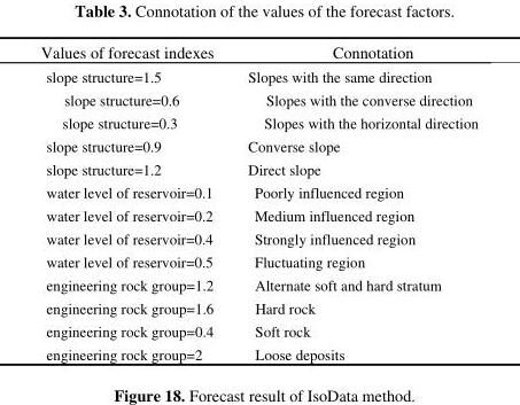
<table><thead><tr><td>Values of forecast indexes</td><td>Connotation</td></tr></thead><tbody><tr><td>slope structure=1.5</td><td>Slopes with the same direction</td></tr><tr><td>slope structure=0.6</td><td>Slopes with the converse direction</td></tr><tr><td>slope structure=0.3</td><td>Slopes with the horizontal direction</td></tr><tr><td>slope structure=0.9</td><td>Converse slope</td></tr><tr><td>slope structure=1.2</td><td>Direct slope</td></tr><tr><td>water level of reservoir=0.1</td><td>Poorly influenced region</td></tr><tr><td>water level of reservoir=0.2</td><td>Medium influenced region</td></tr><tr><td>water level of reservoir=0.4</td><td>Strongly influenced region</td></tr><tr><td>water level of reservoir=0.5</td><td>Fluctuating region</td></tr><tr><td>engineering rock group=1.2</td><td>Alternate soft and hard stratum</td></tr><tr><td>engineering rock group=1.6</td><td>Hard rock</td></tr><tr><td>engineering rock group=0.4</td><td>Soft rock</td></tr><tr><td>engineering rock group=2</td><td>Loose deposits</td></tr></tbody></table>